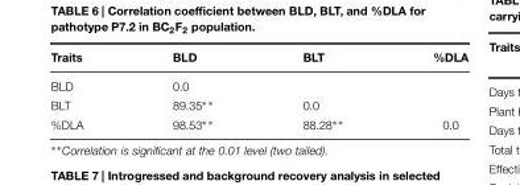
<table><thead><tr><td>Traits</td><td>BLD</td><td>BLT</td><td>%DLA</td></tr></thead><tbody><tr><td>BLD</td><td>0.0</td><td></td><td></td></tr><tr><td>BLT</td><td>89.35∗ ∗</td><td>0.0</td><td></td></tr><tr><td>%DLA</td><td>98.53∗ ∗</td><td>88.28∗∗</td><td>0.0</td></tr></tbody></table>